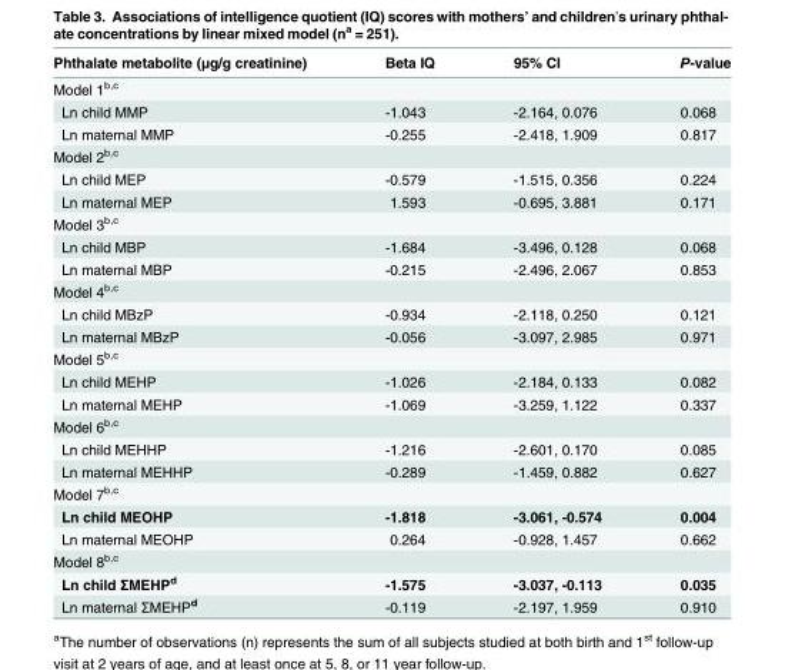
<table><thead><tr><td>Phthalate metabolite (μg/g creatinine)</td><td>Beta IQ</td><td>95% CI</td><td>P-value</td></tr></thead><tbody><tr><td colspan="4">Model 1<sup>b,c</sup></td></tr><tr><td>Ln child MMP</td><td>-1.043</td><td>-2.164, 0.076</td><td>0.068</td></tr><tr><td>Ln maternal MMP</td><td>-0.255</td><td>-2.418, 1.909</td><td>0.817</td></tr><tr><td colspan="4">Model 2<sup>b,c</sup></td></tr><tr><td>Ln child MEP</td><td>-0.579</td><td>-1.515, 0.356</td><td>0.224</td></tr><tr><td>Ln maternal MEP</td><td>1.593</td><td>-0.695, 3.881</td><td>0.171</td></tr><tr><td colspan="4">Model 3<sup>b,c</sup></td></tr><tr><td>Ln child MBP</td><td>-1.684</td><td>-3.496, 0.128</td><td>0.068</td></tr><tr><td>Ln maternal MBP</td><td>-0.215</td><td>-2.496, 2.067</td><td>0.853</td></tr><tr><td colspan="4">Model 4<sup>b,c</sup></td></tr><tr><td>Ln child MBzP</td><td>-0.934</td><td>-2.118, 0.250</td><td>0.121</td></tr><tr><td>Ln maternal MBzP</td><td>-0.056</td><td>-3.097, 2.985</td><td>0.971</td></tr><tr><td colspan="4">Model 5<sup>b,c</sup></td></tr><tr><td>Ln child MEHP</td><td>-1.026</td><td>-2.184, 0.133</td><td>0.082</td></tr><tr><td>Ln maternal MEHP</td><td>-1.069</td><td>-3.259, 1.122</td><td>0.337</td></tr><tr><td colspan="4">Model 6<sup>b,c</sup></td></tr><tr><td>Ln child MEHHP</td><td>-1.216</td><td>-2.601, 0.170</td><td>0.085</td></tr><tr><td>Ln maternal MEHHP</td><td>-0.289</td><td>-1.459, 0.882</td><td>0.627</td></tr><tr><td colspan="4">Model 7<sup>b,c</sup></td></tr><tr><td>Ln child MEOHP</td><td>-1.818</td><td>-3.061, -0.574</td><td>0.004</td></tr><tr><td>Ln maternal MEOHP</td><td>0.264</td><td>-0.928, 1.457</td><td>0.662</td></tr><tr><td colspan="4">Model 8<sup>b,c</sup></td></tr><tr><td>Ln child ΣMEHP<sup>d</sup></td><td>-1.575</td><td>-3.037, -0.113</td><td>0.035</td></tr><tr><td>Ln maternal ΣMEHP<sup>d</sup></td><td>-0.119</td><td>-2.197, 1.959</td><td>0.910</td></tr></tbody></table>